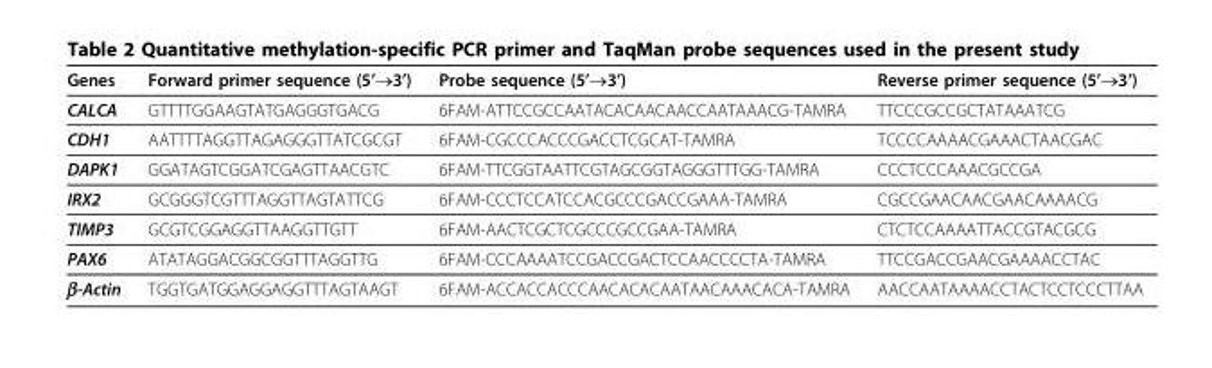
<table><thead><tr><td>Genes</td><td>Forward primer sequence (5’→3’)</td><td>Probe sequence (5’→3’)</td><td>Reverse primer sequence (5’→3’)</td></tr></thead><tbody><tr><td>CALCA</td><td>GTTTTGGAAGTATGAGGGTGACG</td><td>6FAM-ATTCCGCCAATACACAACAACCAATAAACG-TAMRA</td><td>TTCCCGCCGCTATAAATCG</td></tr><tr><td>CDH1</td><td>AATTTTAGGTTAGAGGGTTATCGCGT</td><td>6FAM-CGCCCACCCGACCTCGCAT-TAMRA</td><td>TCCCCAAAACGAAACTAACGAC</td></tr><tr><td>DAPK1</td><td>GGATAGTCGGATCGAGTTAACGTC</td><td>6FAM-TTCGGTAATTCGTAGCGGTAGGGTTTGG-TAMRA</td><td>CCCTCCCAAACGCCGA</td></tr><tr><td>IRX2</td><td>GCGGGTCGTTTAGGTTAGTATTCG</td><td>6FAM-CCCTCCATCCACGCCCGACCGAAA-TAMRA</td><td>CGCCGAACAACGAACAAAACG</td></tr><tr><td>TIMP3</td><td>GCGTCGGAGGTTAAGGTTGTT</td><td>6FAM-AACTCGCTCGCCCGCCGAA-TAMRA</td><td>CTCTCCAAAATTACCGTACGCG</td></tr><tr><td>PAX6</td><td>ATATAGGACGGCGGTTTAGGTTG</td><td>6FAM-CCCAAAATCCGACCGACTCCAACCCCTA-TAMRA</td><td>TTCCGACCGAACGAAAACCTAC</td></tr><tr><td>β-Actin</td><td>TGGTGATGGAGGAGGTTTAGTAAGT</td><td>6FAM-ACCACCACCCAACACACAATAACAAACACA-TAMRA</td><td>AACCAATAAAACCTACTCCTCCCTTAA</td></tr></tbody></table>